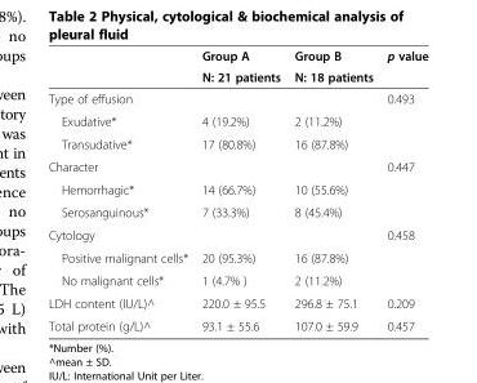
<table><thead><tr><td rowspan="2"></td><td rowspan="2">Group A N: 21 patients</td><td rowspan="2">Group B N: 18 patients</td><td rowspan="2">p value</td></tr><tr></tr></thead><tbody><tr><td>Type of effusion</td><td></td><td></td><td>0.493</td></tr><tr><td>Exudative*</td><td>4 (19.2%)</td><td>2 (11.2%)</td><td></td></tr><tr><td>Transudative*</td><td>17 (80.8%)</td><td>16 (87.8%)</td><td></td></tr><tr><td>Character</td><td></td><td></td><td>0.447</td></tr><tr><td>Hemorrhagic*</td><td>14 (66.7%)</td><td>10 (55.6%)</td><td></td></tr><tr><td>Serosanguinous*</td><td>7 (33.3%)</td><td>8 (45.4%)</td><td></td></tr><tr><td>Cytology</td><td></td><td></td><td>0.458</td></tr><tr><td>Positive malignant cells*</td><td>20 (95.3%)</td><td>16 (87.8%)</td><td></td></tr><tr><td>No malignant cells*</td><td>1 (4.7% )</td><td>2 (11.2%)</td><td></td></tr><tr><td>LDH content (IU/L)^</td><td>220.0 ± 95.5</td><td>296.8 ± 75.1</td><td>0.209</td></tr><tr><td>Total protein (g/L)^</td><td>93.1 ± 55.6</td><td>107.0 ± 59.9</td><td>0.457</td></tr></tbody></table>